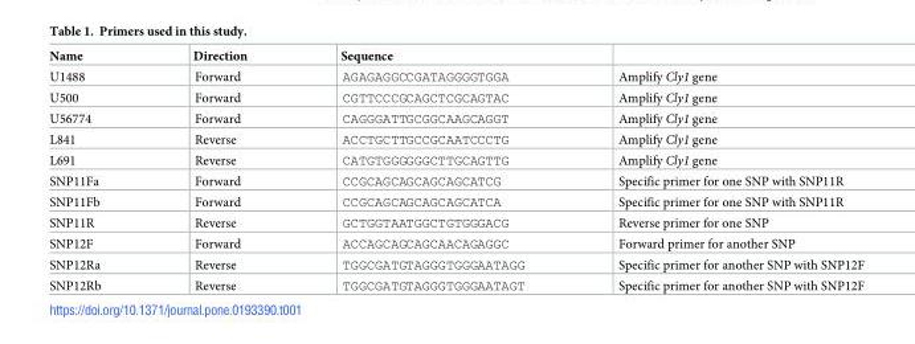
<table><thead><tr><td>Name</td><td>Direction</td><td>Sequence</td><td></td></tr></thead><tbody><tr><td>U1488</td><td>Forward</td><td>AGAGAGGCCGATAGGGGTGGA</td><td>Amplify Cly1 gene</td></tr><tr><td>U500</td><td>Forward</td><td>CGTTCCCGCAGCTCGCAGTAC</td><td>Amplify Cly1 gene</td></tr><tr><td>U56774</td><td>Forward</td><td>CAGGGATTGCGGCAAGCAGGT</td><td>Amplify Cly1 gene</td></tr><tr><td>L841</td><td>Reverse</td><td>ACCTGCTTGCCGCAATCCCTG</td><td>Amplify Cly1 gene</td></tr><tr><td>L691</td><td>Reverse</td><td>CATGTGGGGGGCTTGCAGTTG</td><td>Amplify Cly1 gene</td></tr><tr><td>SNP11Fa</td><td>Forward</td><td>CCGCAGCAGCAGCAGCATCG</td><td>Specific primer for one SNP with SNP11R</td></tr><tr><td>SNP11Fb</td><td>Forward</td><td>CCGCAGCAGCAGCAGCATCA</td><td>Specific primer for one SNP with SNP11R</td></tr><tr><td>SNP11R</td><td>Reverse</td><td>GCTGGTAATGGCTGTGGGACG</td><td>Reverse primer for one SNP</td></tr><tr><td>SNP12F</td><td>Forward</td><td>ACCAGCAGCAGCAACAGAGGC</td><td>Forward primer for another SNP</td></tr><tr><td>SNP12Ra</td><td>Reverse</td><td>TGGCGATGTAGGGTGGGAATAGG</td><td>Specific primer for another SNP with SNP12F</td></tr><tr><td>SNP12Rb</td><td>Reverse</td><td>TGGCGATGTAGGGTGGGAATAGT</td><td>Specific primer for another SNP with SNP12F</td></tr></tbody></table>